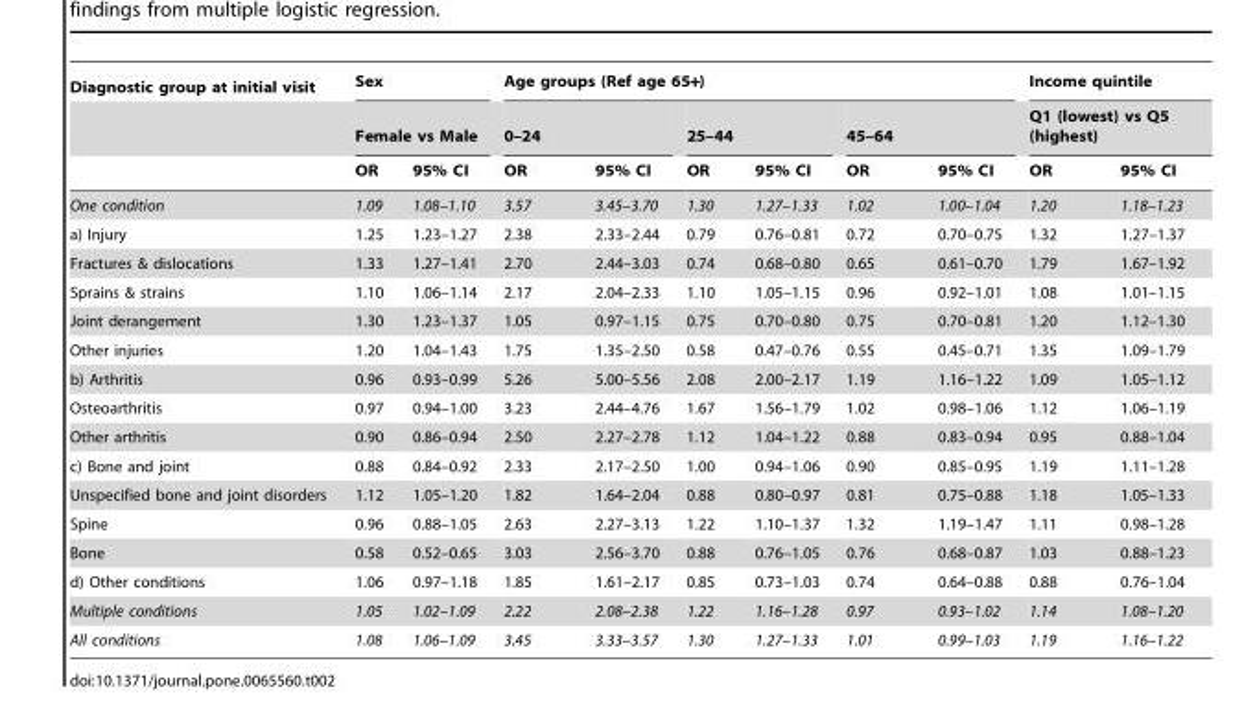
<table><thead><tr><td rowspan="3">Diagnostic group at initial visit</td><td rowspan="2" colspan="2">Sex Female vs Male</td><td colspan="6">Age groups (Ref age 65+)</td><td rowspan="2" colspan="2">Income quintile Q1 (lowest) vs Q5 (highest)</td></tr><tr><td colspan="2">0–24</td><td colspan="2">25–44</td><td colspan="2">45–64</td></tr><tr><td>OR</td><td>95% CI</td><td>OR</td><td>95% CI</td><td>OR</td><td>95% CI</td><td>OR</td><td>95% CI</td><td>OR</td><td>95% CI</td></tr></thead><tbody><tr><td>One condition</td><td>1.09</td><td>1.08–1.10</td><td>3.57</td><td>3.45–3.70</td><td>1.30</td><td>1.27–1.33</td><td>1.02</td><td>1.00–1.04</td><td>1.20</td><td>1.18–1.23</td></tr><tr><td>a) Injury</td><td>1.25</td><td>1.23–1.27</td><td>2.38</td><td>2.33–2.44</td><td>0.79</td><td>0.76–0.81</td><td>0.72</td><td>0.70–0.75</td><td>1.32</td><td>1.27–1.37</td></tr><tr><td>Fractures &amp; dislocations</td><td>1.33</td><td>1.27–1.41</td><td>2.70</td><td>2.44–3.03</td><td>0.74</td><td>0.68–0.80</td><td>0.65</td><td>0.61–0.70</td><td>1.79</td><td>1.67–1.92</td></tr><tr><td>Sprains &amp; strains</td><td>1.10</td><td>1.06–1.14</td><td>2.17</td><td>2.04–2.33</td><td>1.10</td><td>1.05–1.15</td><td>0.96</td><td>0.92–1.01</td><td>1.08</td><td>1.01–1.15</td></tr><tr><td>Joint derangement</td><td>1.30</td><td>1.23–1.37</td><td>1.05</td><td>0.97–1.15</td><td>0.75</td><td>0.70–0.80</td><td>0.75</td><td>0.70–0.81</td><td>1.20</td><td>1.12–1.30</td></tr><tr><td>Other injuries</td><td>1.20</td><td>1.04–1.43</td><td>1.75</td><td>1.35–2.50</td><td>0.58</td><td>0.47–0.76</td><td>0.55</td><td>0.45–0.71</td><td>1.35</td><td>1.09–1.79</td></tr><tr><td>b) Arthritis</td><td>0.96</td><td>0.93–0.99</td><td>5.26</td><td>5.00–5.56</td><td>2.08</td><td>2.00–2.17</td><td>1.19</td><td>1.16–1.22</td><td>1.09</td><td>1.05–1.12</td></tr><tr><td>Osteoarthritis</td><td>0.97</td><td>0.94–1.00</td><td>3.23</td><td>2.44–4.76</td><td>1.67</td><td>1.56–1.79</td><td>1.02</td><td>0.98–1.06</td><td>1.12</td><td>1.06–1.19</td></tr><tr><td>Other arthritis</td><td>0.90</td><td>0.86–0.94</td><td>2.50</td><td>2.27–2.78</td><td>1.12</td><td>1.04–1.22</td><td>0.88</td><td>0.83–0.94</td><td>0.95</td><td>0.88–1.04</td></tr><tr><td>c) Bone and joint</td><td>0.88</td><td>0.84–0.92</td><td>2.33</td><td>2.17–2.50</td><td>1.00</td><td>0.94–1.06</td><td>0.90</td><td>0.85–0.95</td><td>1.19</td><td>1.11–1.28</td></tr><tr><td>Unspecified bone and joint disorders</td><td>1.12</td><td>1.05–1.20</td><td>1.82</td><td>1.64–2.04</td><td>0.88</td><td>0.80–0.97</td><td>0.81</td><td>0.75–0.88</td><td>1.18</td><td>1.05–1.33</td></tr><tr><td>Spine</td><td>0.96</td><td>0.88–1.05</td><td>2.63</td><td>2.27–3.13</td><td>1.22</td><td>1.10–1.37</td><td>1.32</td><td>1.19–1.47</td><td>1.11</td><td>0.98–1.28</td></tr><tr><td>Bone</td><td>0.58</td><td>0.52–0.65</td><td>3.03</td><td>2.56–3.70</td><td>0.88</td><td>0.76–1.05</td><td>0.76</td><td>0.68–0.87</td><td>1.03</td><td>0.88–1.23</td></tr><tr><td>d) Other conditions</td><td>1.06</td><td>0.97–1.18</td><td>1.85</td><td>1.61–2.17</td><td>0.85</td><td>0.73–1.03</td><td>0.74</td><td>0.64–0.88</td><td>0.88</td><td>0.76–1.04</td></tr><tr><td>Multiple conditions</td><td>1.05</td><td>1.02–1.09</td><td>2.22</td><td>2.08–2.38</td><td>1.22</td><td>1.16–1.28</td><td>0.97</td><td>0.93–1.02</td><td>1.14</td><td>1.08–1.20</td></tr><tr><td>All conditions</td><td>1.08</td><td>1.06–1.09</td><td>3.45</td><td>3.33–3.57</td><td>1.30</td><td>1.27–1.33</td><td>1.01</td><td>0.99–1.03</td><td>1.19</td><td>1.16–1.22</td></tr></tbody></table>